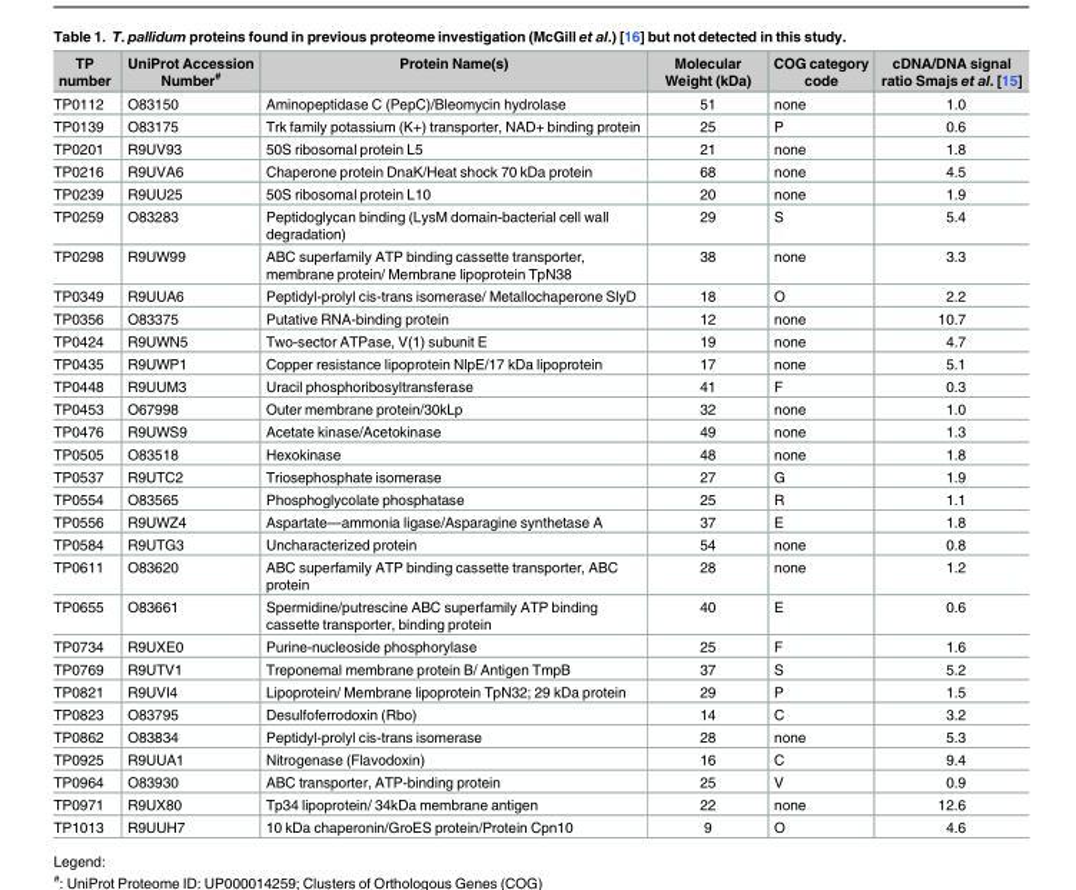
<table><thead><tr><td>TP number</td><td>UniProt Accession Number<sup>#</sup></td><td>Protein Name(s)</td><td>Molecular Weight (kDa)</td><td>COG category code</td><td>cDNA/DNA signal ratio Smajs et al. [15]</td></tr></thead><tbody><tr><td>TP0112</td><td>O83150</td><td>Aminopeptidase C (PepC)/Bleomycin hydrolase</td><td>51</td><td>none</td><td>1.0</td></tr><tr><td>TP0139</td><td>O83175</td><td>Trk family potassium (K+) transporter, NAD+ binding protein</td><td>25</td><td>P</td><td>0.6</td></tr><tr><td>TP0201</td><td>R9UV93</td><td>50S ribosomal protein L5</td><td>21</td><td>none</td><td>1.8</td></tr><tr><td>TP0216</td><td>R9UVA6</td><td>Chaperone protein DnaK/Heat shock 70 kDa protein</td><td>68</td><td>none</td><td>4.5</td></tr><tr><td>TP0239</td><td>R9UU25</td><td>50S ribosomal protein L10</td><td>20</td><td>none</td><td>1.9</td></tr><tr><td>TP0259</td><td>O83283</td><td>Peptidoglycan binding (LysM domain-bacterial cell wall degradation)</td><td>29</td><td>S</td><td>5.4</td></tr><tr><td>TP0298</td><td>R9UW99</td><td>ABC superfamily ATP binding cassette transporter, membrane protein/ Membrane lipoprotein TpN38</td><td>38</td><td>none</td><td>3.3</td></tr><tr><td>TP0349</td><td>R9UUA6</td><td>Peptidyl-prolyl cis-trans isomerase/ Metallochaperone SlyD</td><td>18</td><td>O</td><td>2.2</td></tr><tr><td>TP0356</td><td>O83375</td><td>Putative RNA-binding protein</td><td>12</td><td>none</td><td>10.7</td></tr><tr><td>TP0424</td><td>R9UWN5</td><td>Two-sector ATPase, V(1) subunit E</td><td>19</td><td>none</td><td>4.7</td></tr><tr><td>TP0435</td><td>R9UWP1</td><td>Copper resistance lipoprotein NlpE/17 kDa lipoprotein</td><td>17</td><td>none</td><td>5.1</td></tr><tr><td>TP0448</td><td>R9UUM3</td><td>Uracil phosphoribosyltransferase</td><td>41</td><td>F</td><td>0.3</td></tr><tr><td>TP0453</td><td>O67998</td><td>Outer membrane protein/30kLp</td><td>32</td><td>none</td><td>1.0</td></tr><tr><td>TP0476</td><td>R9UWS9</td><td>Acetate kinase/Acetokinase</td><td>49</td><td>none</td><td>1.3</td></tr><tr><td>TP0505</td><td>O83518</td><td>Hexokinase</td><td>48</td><td>none</td><td>1.8</td></tr><tr><td>TP0537</td><td>R9UTC2</td><td>Triosephosphate isomerase</td><td>27</td><td>G</td><td>1.9</td></tr><tr><td>TP0554</td><td>O83565</td><td>Phosphoglycolate phosphatase</td><td>25</td><td>R</td><td>1.1</td></tr><tr><td>TP0556</td><td>R9UWZ4</td><td>Aspartate—ammonia ligase/Asparagine synthetase A</td><td>37</td><td>E</td><td>1.8</td></tr><tr><td>TP0584</td><td>R9UTG3</td><td>Uncharacterized protein</td><td>54</td><td>none</td><td>0.8</td></tr><tr><td>TP0611</td><td>O83620</td><td>ABC superfamily ATP binding cassette transporter, ABC protein</td><td>28</td><td>none</td><td>1.2</td></tr><tr><td>TP0655</td><td>O83661</td><td>Spermidine/putrescine ABC superfamily ATP binding cassette transporter, binding protein</td><td>40</td><td>E</td><td>0.6</td></tr><tr><td>TP0734</td><td>R9UXE0</td><td>Purine-nucleoside phosphorylase</td><td>25</td><td>F</td><td>1.6</td></tr><tr><td>TP0769</td><td>R9UTV1</td><td>Treponemal membrane protein B/ Antigen TmpB</td><td>37</td><td>S</td><td>5.2</td></tr><tr><td>TP0821</td><td>R9UVI4</td><td>Lipoprotein/ Membrane lipoprotein TpN32; 29 kDa protein</td><td>29</td><td>P</td><td>1.5</td></tr><tr><td>TP0823</td><td>O83795</td><td>Desulfoferrodoxin (Rbo)</td><td>14</td><td>C</td><td>3.2</td></tr><tr><td>TP0862</td><td>O83834</td><td>Peptidyl-prolyl cis-trans isomerase</td><td>28</td><td>none</td><td>5.3</td></tr><tr><td>TP0925</td><td>R9UUA1</td><td>Nitrogenase (Flavodoxin)</td><td>16</td><td>C</td><td>9.4</td></tr><tr><td>TP0964</td><td>O83930</td><td>ABC transporter, ATP-binding protein</td><td>25</td><td>V</td><td>0.9</td></tr><tr><td>TP0971</td><td>R9UX80</td><td>Tp34 lipoprotein/ 34kDa membrane antigen</td><td>22</td><td>none</td><td>12.6</td></tr><tr><td>TP1013</td><td>R9UUH7</td><td>10 kDa chaperonin/GroES protein/Protein Cpn10</td><td>9</td><td>O</td><td>4.6</td></tr></tbody></table>